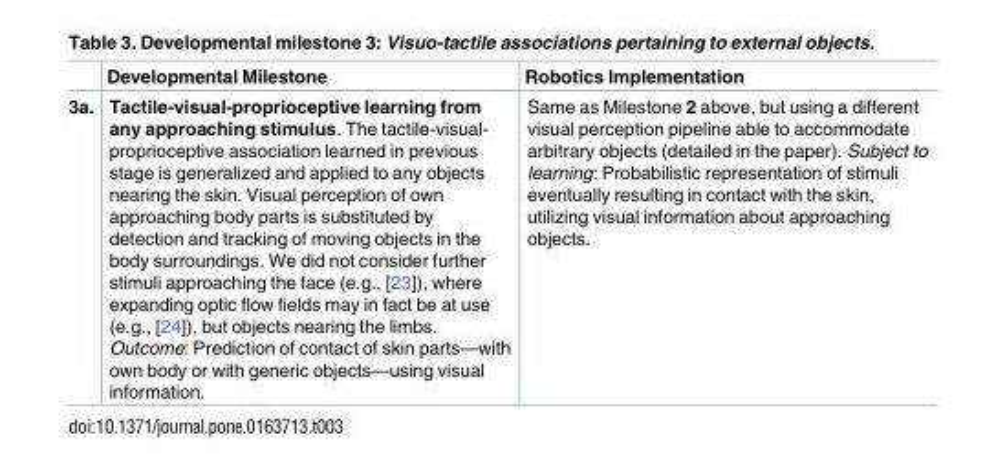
<table><thead><tr><td></td><td>Developmental Milestone</td><td>Robotics Implementation</td></tr></thead><tbody><tr><td>3a.</td><td>Tactile-visual-proprioceptive learning from any approaching stimulus. The tactile-visual- proprioceptive association learned in previous stage is generalized and applied to any objects nearing the skin. Visual perception of own approaching body parts is substituted by detection and tracking of moving objects in the body surroundings. We did not consider further stimuli approaching the face (e.g., [23]), where expanding optic flow fields may in fact be at use (e.g., [24]), but objects nearing the limbs. Outcome: Prediction of contact of skin parts—with own body or with generic objects—using visual information.</td><td>Same as Milestone 2 above, but using a different visual perception pipeline able to accommodate arbitrary objects (detailed in the paper). Subject to learning: Probabilistic representation of stimuli eventually resulting in contact with the skin, utilizing visual information about approaching objects.</td></tr></tbody></table>